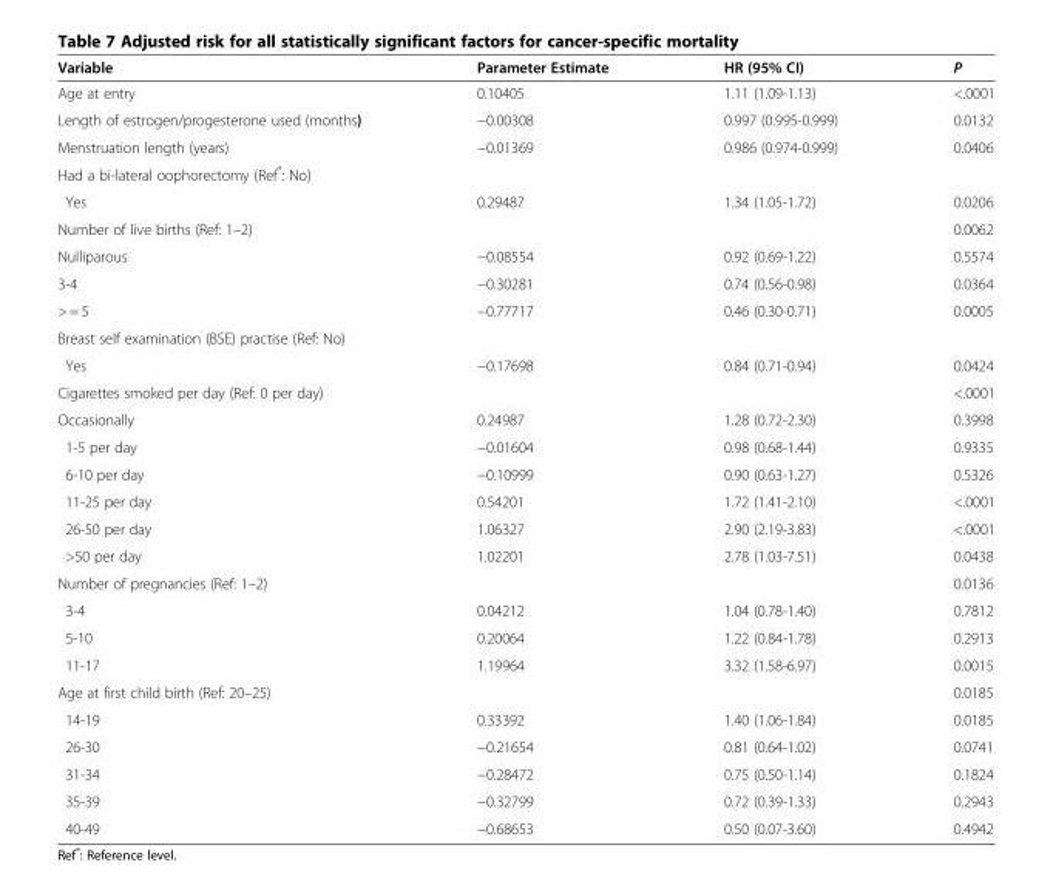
<table><thead><tr><td>Variable</td><td>Parameter Estimate</td><td>HR (95% CI)</td><td>P</td></tr></thead><tbody><tr><td>Age at entry</td><td>0.10405</td><td>1.11 (1.09-1.13)</td><td>&lt;.0001</td></tr><tr><td>Length of estrogen/progesterone used (months)</td><td>−0.00308</td><td>0.997 (0.995-0.999)</td><td>0.0132</td></tr><tr><td>Menstruation length (years)</td><td>−0.01369</td><td>0.986 (0.974-0.999)</td><td>0.0406</td></tr><tr><td colspan="4">Had a bi-lateral oophorectomy (Ref*: No)</td></tr><tr><td>Yes</td><td>0.29487</td><td>1.34 (1.05-1.72)</td><td>0.0206</td></tr><tr><td>Number of live births (Ref: 1–2)</td><td></td><td></td><td>0.0062</td></tr><tr><td>Nulliparous</td><td>−0.08554</td><td>0.92 (0.69-1.22)</td><td>0.5574</td></tr><tr><td>3-4</td><td>−0.30281</td><td>0.74 (0.56-0.98)</td><td>0.0364</td></tr><tr><td>&gt; = 5</td><td>−0.77717</td><td>0.46 (0.30-0.71)</td><td>0.0005</td></tr><tr><td colspan="4">Breast self examination (BSE) practise (Ref: No)</td></tr><tr><td>Yes</td><td>−0.17698</td><td>0.84 (0.71-0.94)</td><td>0.0424</td></tr><tr><td>Cigarettes smoked per day (Ref: 0 per day)</td><td></td><td></td><td>&lt;.0001</td></tr><tr><td>Occasionally</td><td>0.24987</td><td>1.28 (0.72-2.30)</td><td>0.3998</td></tr><tr><td>1-5 per day</td><td>−0.01604</td><td>0.98 (0.68-1.44)</td><td>0.9335</td></tr><tr><td>6-10 per day</td><td>−0.10999</td><td>0.90 (0.63-1.27)</td><td>0.5326</td></tr><tr><td>11-25 per day</td><td>0.54201</td><td>1.72 (1.41-2.10)</td><td>&lt;.0001</td></tr><tr><td>26-50 per day</td><td>1.06327</td><td>2.90 (2.19-3.83)</td><td>&lt;.0001</td></tr><tr><td>&gt;50 per day</td><td>1.02201</td><td>2.78 (1.03-7.51)</td><td>0.0438</td></tr><tr><td>Number of pregnancies (Ref: 1–2)</td><td></td><td></td><td>0.0136</td></tr><tr><td>3-4</td><td>0.04212</td><td>1.04 (0.78-1.40)</td><td>0.7812</td></tr><tr><td>5-10</td><td>0.20064</td><td>1.22 (0.84-1.78)</td><td>0.2913</td></tr><tr><td>11-17</td><td>1.19964</td><td>3.32 (1.58-6.97)</td><td>0.0015</td></tr><tr><td>Age at first child birth (Ref: 20–25)</td><td></td><td></td><td>0.0185</td></tr><tr><td>14-19</td><td>0.33392</td><td>1.40 (1.06-1.84)</td><td>0.0185</td></tr><tr><td>26-30</td><td>−0.21654</td><td>0.81 (0.64-1.02)</td><td>0.0741</td></tr><tr><td>31-34</td><td>−0.28472</td><td>0.75 (0.50-1.14)</td><td>0.1824</td></tr><tr><td>35-39</td><td>−0.32799</td><td>0.72 (0.39-1.33)</td><td>0.2943</td></tr><tr><td>40-49</td><td>−0.68653</td><td>0.50 (0.07-3.60)</td><td>0.4942</td></tr></tbody></table>